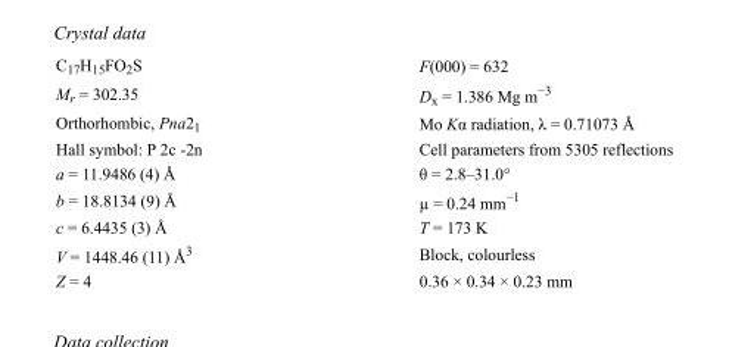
<table><tbody><tr><td>C<sub>17</sub>H<sub>15</sub>FO<sub>2</sub>S</td><td>F(000) = 632</td></tr><tr><td>M<sub>r</sub> = 302.35</td><td>D<sub>x</sub> = 1.386 Mg m<sup>−3</sup></td></tr><tr><td>Orthorhombic, Pna2<sub>1</sub></td><td>Mo Kα radiation, λ = 0.71073 Å</td></tr><tr><td>Hall symbol: P 2c -2n</td><td>Cell parameters from 5305 reflections</td></tr><tr><td>a = 11.9486 (4) Å</td><td>θ = 2.8–31.0°</td></tr><tr><td>b = 18.8134 (9) Å</td><td>µ = 0.24 mm<sup>−1</sup></td></tr><tr><td>c = 6.4435 (3) Å</td><td>T = 173 K</td></tr><tr><td>V = 1448.46 (11) Å<sup>3</sup></td><td>Block, colourless</td></tr><tr><td>Z = 4</td><td>0.36 × 0.34 × 0.23 mm</td></tr></tbody></table>